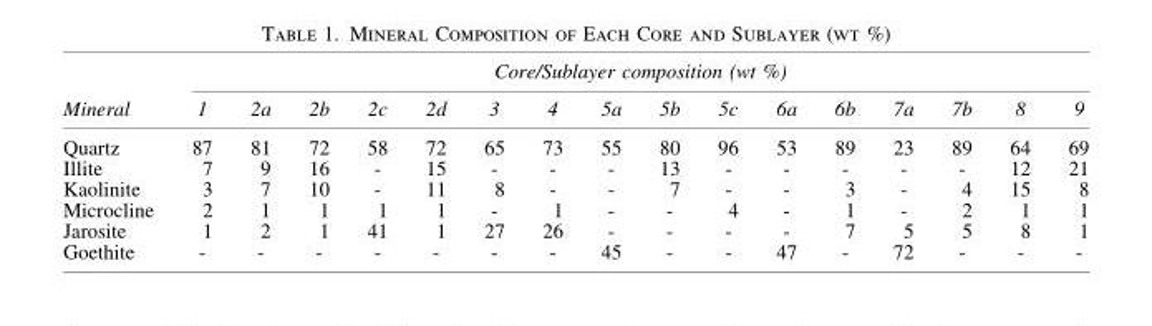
<table><thead><tr><td rowspan="2">Mineral</td><td colspan="16">Core/Sublayer composition (wt %)</td></tr><tr><td>1</td><td>2a</td><td>2b</td><td>2c</td><td>2d</td><td>3</td><td>4</td><td>5a</td><td>5b</td><td>5c</td><td>6a</td><td>6b</td><td>7a</td><td>7b</td><td>8</td><td>9</td></tr></thead><tbody><tr><td>Quartz</td><td>87</td><td>81</td><td>72</td><td>58</td><td>72</td><td>65</td><td>73</td><td>55</td><td>80</td><td>96</td><td>53</td><td>89</td><td>23</td><td>89</td><td>64</td><td>69</td></tr><tr><td>Illite</td><td>7</td><td>9</td><td>16</td><td>-</td><td>15</td><td>-</td><td>-</td><td>-</td><td>13</td><td>-</td><td>-</td><td>-</td><td>-</td><td>-</td><td>12</td><td>21</td></tr><tr><td>Kaolinite</td><td>3</td><td>7</td><td>10</td><td>-</td><td>11</td><td>8</td><td>-</td><td>-</td><td>7</td><td>-</td><td>-</td><td>3</td><td>-</td><td>4</td><td>15</td><td>8</td></tr><tr><td>Microcline</td><td>2</td><td>1</td><td>1</td><td>1</td><td>1</td><td>-</td><td>1</td><td>-</td><td>-</td><td>4</td><td>-</td><td>1</td><td>-</td><td>2</td><td>1</td><td>1</td></tr><tr><td>Jarosite</td><td>1</td><td>2</td><td>1</td><td>41</td><td>1</td><td>27</td><td>26</td><td>-</td><td>-</td><td>-</td><td>-</td><td>7</td><td>5</td><td>5</td><td>8</td><td>1</td></tr><tr><td>Goethite</td><td>-</td><td>-</td><td>-</td><td>-</td><td>-</td><td>-</td><td>-</td><td>45</td><td>-</td><td>-</td><td>47</td><td>-</td><td>72</td><td>-</td><td>-</td><td>-</td></tr></tbody></table>